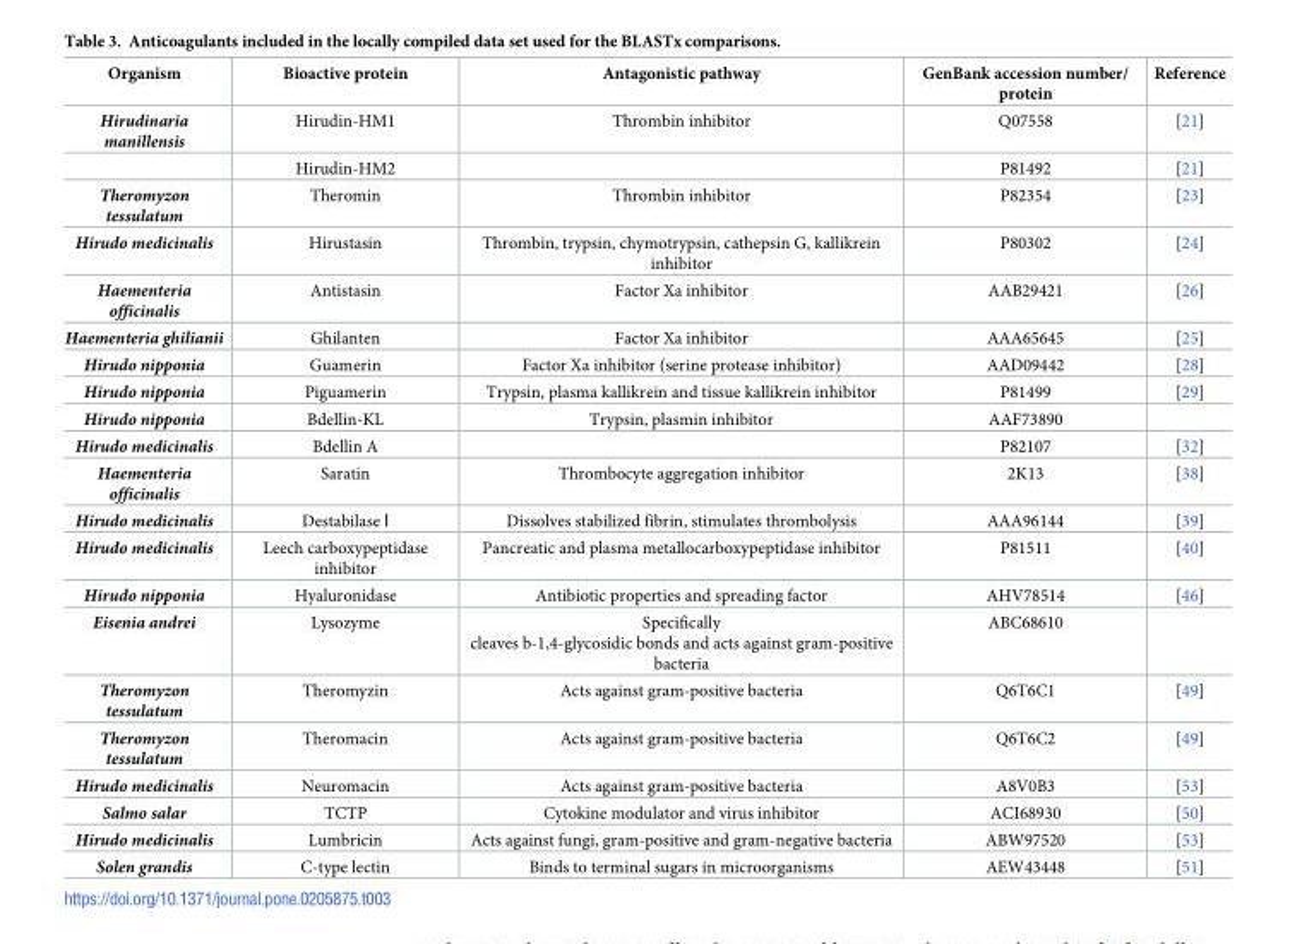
<table><thead><tr><td>Organism</td><td>Bioactive protein</td><td>Antagonistic pathway</td><td>GenBank accession number/ protein</td><td>Reference</td></tr></thead><tbody><tr><td rowspan="2">Hirudinaria manillensis</td><td>Hirudin-HM1</td><td>Thrombin inhibitor</td><td>Q07558</td><td>[21]</td></tr><tr><td>Hirudin-HM2</td><td></td><td>P81492</td><td>[21]</td></tr><tr><td>Theromyzon tessulatum</td><td>Theromin</td><td>Thrombin inhibitor</td><td>P82354</td><td>[23]</td></tr><tr><td>Hirudo medicinalis</td><td>Hirustasin</td><td>Thrombin, trypsin, chymotrypsin, cathepsin G, kallikrein inhibitor</td><td>P80302</td><td>[24]</td></tr><tr><td>Haementeria officinalis</td><td>Antistasin</td><td>Factor Xa inhibitor</td><td>AAB29421</td><td>[26]</td></tr><tr><td>Haementeria ghilianii</td><td>Ghilanten</td><td>Factor Xa inhibitor</td><td>AAA65645</td><td>[25]</td></tr><tr><td>Hirudo nipponia</td><td>Guamerin</td><td>Factor Xa inhibitor (serine protease inhibitor)</td><td>AAD09442</td><td>[28]</td></tr><tr><td>Hirudo nipponia</td><td>Piguamerin</td><td>Trypsin, plasma kallikrein and tissue kallikrein inhibitor</td><td>P81499</td><td>[29]</td></tr><tr><td>Hirudo nipponia</td><td>Bdellin-KL</td><td>Trypsin, plasmin inhibitor</td><td>AAF73890</td><td></td></tr><tr><td>Hirudo medicinalis</td><td>Bdellin A</td><td></td><td>P82107</td><td>[32]</td></tr><tr><td>Haementeria officinalis</td><td>Saratin</td><td>Thrombocyte aggregation inhibitor</td><td>2K13</td><td>[38]</td></tr><tr><td>Hirudo medicinalis</td><td>Destabilase Ⅰ</td><td>Dissolves stabilized fibrin, stimulates thrombolysis</td><td>AAA96144</td><td>[39]</td></tr><tr><td>Hirudo medicinalis</td><td>Leech carboxypeptidase inhibitor</td><td>Pancreatic and plasma metallocarboxypeptidase inhibitor</td><td>P81511</td><td>[40]</td></tr><tr><td>Hirudo nipponia</td><td>Hyaluronidase</td><td>Antibiotic properties and spreading factor</td><td>AHV78514</td><td>[46]</td></tr><tr><td>Eisenia andrei</td><td>Lysozyme</td><td>Specifically cleaves b-1,4-glycosidic bonds and acts against gram-positive bacteria</td><td>ABC68610</td><td></td></tr><tr><td>Theromyzon tessulatum</td><td>Theromyzin</td><td>Acts against gram-positive bacteria</td><td>Q6T6C1</td><td>[49]</td></tr><tr><td>Theromyzon tessulatum</td><td>Theromacin</td><td>Acts against gram-positive bacteria</td><td>Q6T6C2</td><td>[49]</td></tr><tr><td>Hirudo medicinalis</td><td>Neuromacin</td><td>Acts against gram-positive bacteria</td><td>A8V0B3</td><td>[53]</td></tr><tr><td>Salmo salar</td><td>TCTP</td><td>Cytokine modulator and virus inhibitor</td><td>ACI68930</td><td>[50]</td></tr><tr><td>Hirudo medicinalis</td><td>Lumbricin</td><td>Acts against fungi, gram-positive and gram-negative bacteria</td><td>ABW97520</td><td>[53]</td></tr><tr><td>Solen grandis</td><td>C-type lectin</td><td>Binds to terminal sugars in microorganisms</td><td>AEW43448</td><td>[51]</td></tr></tbody></table>